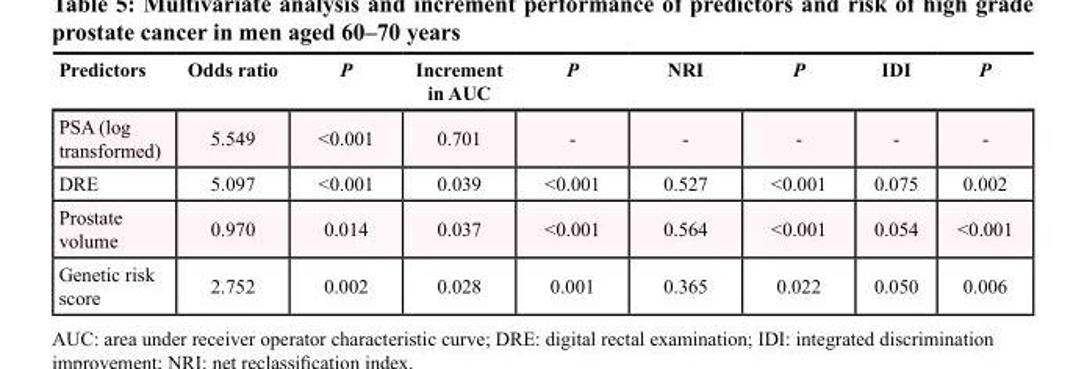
<table><thead><tr><td>Predictors</td><td>Odds ratio</td><td>P</td><td>Increment in AUC</td><td>P</td><td>NRI</td><td>P</td><td>IDI</td><td>P</td></tr></thead><tbody><tr><td>PSA (log transformed)</td><td>5.549</td><td>&lt;0.001</td><td>0.701</td><td>-</td><td>-</td><td>-</td><td>-</td><td>-</td></tr><tr><td>DRE</td><td>5.097</td><td>&lt;0.001</td><td>0.039</td><td>&lt;0.001</td><td>0.527</td><td>&lt;0.001</td><td>0.075</td><td>0.002</td></tr><tr><td>Prostate volume</td><td>0.970</td><td>0.014</td><td>0.037</td><td>&lt;0.001</td><td>0.564</td><td>&lt;0.001</td><td>0.054</td><td>&lt;0.001</td></tr><tr><td>Genetic risk score</td><td>2.752</td><td>0.002</td><td>0.028</td><td>0.001</td><td>0.365</td><td>0.022</td><td>0.050</td><td>0.006</td></tr></tbody></table>